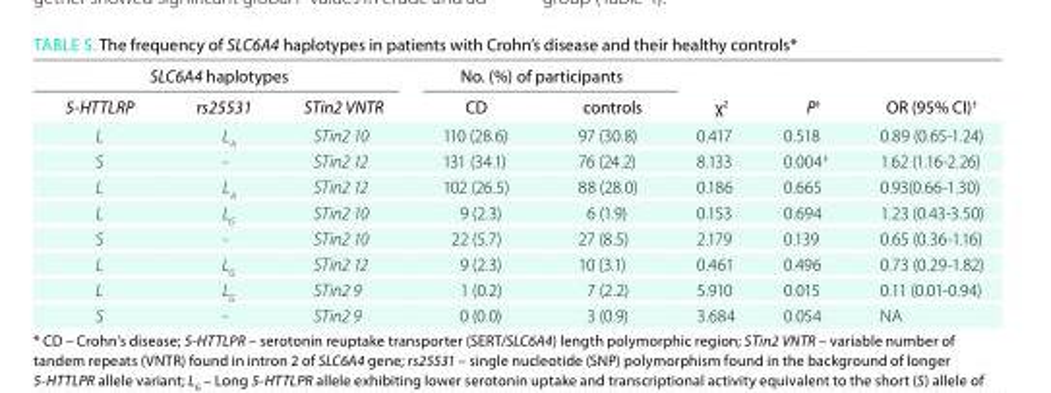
<table><thead><tr><td colspan="3">SLC6A4 haplotypes</td><td colspan="2">No. (%) of participants</td><td rowspan="2">χ2</td><td rowspan="2">P<sup>†</sup></td><td rowspan="2">OR (95% Ci)<sup>†</sup></td></tr><tr><td>5-HTTLRP</td><td>rs25531</td><td>STin2 VNTR</td><td>CD</td><td>controls</td></tr></thead><tbody><tr><td>L</td><td>L<sub>A</sub></td><td>STin2 10</td><td>110 (28.6)</td><td>97 (30.8)</td><td>0.417</td><td>0.518</td><td>0.89 (0.65-1.24)</td></tr><tr><td>S</td><td>-</td><td>STin2 12</td><td>131 (34.1)</td><td>76 (24.2)</td><td>8.133</td><td>0.004<sup>‡</sup></td><td>1.62 (1.16-2.26)</td></tr><tr><td>L</td><td>L<sub>A</sub></td><td>STin2 12</td><td>102 (26.5)</td><td>88 (28.0)</td><td>0.186</td><td>0.665</td><td>0.93(0.66-1.30)</td></tr><tr><td>L</td><td>L<sub>G</sub></td><td>STin2 10</td><td>9 (2.3)</td><td>6 (1.9)</td><td>0.153</td><td>0.694</td><td>1.23 (0.43-3.50)</td></tr><tr><td>S</td><td>-</td><td>STin2 10</td><td>22 (5.7)</td><td>27 (8.5)</td><td>2.179</td><td>0.139</td><td>0.65 (0.36-1.16)</td></tr><tr><td>L</td><td>L<sub>G</sub></td><td>STin2 12</td><td>9 (2.3)</td><td>10 (3.1)</td><td>0.461</td><td>0.496</td><td>0.73 (0.29-1.82)</td></tr><tr><td>L</td><td>L<sub>G</sub></td><td>STin2 9</td><td>1 (0.2)</td><td>7 (2.2)</td><td>5.910</td><td>0.015</td><td>0.11 (0.01-0.94)</td></tr><tr><td>S</td><td>-</td><td>STin2 9</td><td>0 (0.0)</td><td>3 (0.9)</td><td>3.684</td><td>0.054</td><td>NA</td></tr></tbody></table>